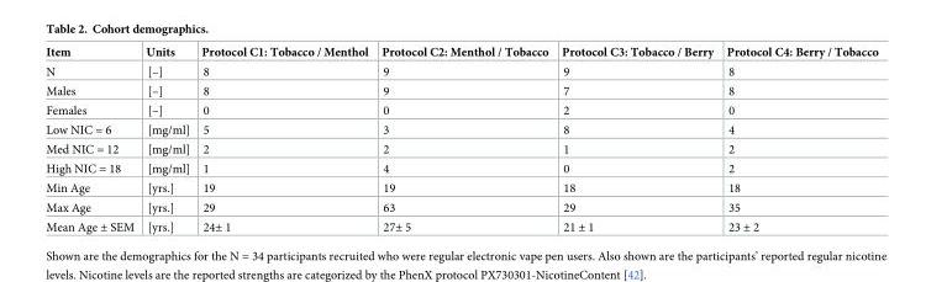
<table><thead><tr><td>Item</td><td>Units</td><td>Protocol C1: Tobacco / Menthol</td><td>Protocol C2: Menthol / Tobacco</td><td>Protocol C3: Tobacco / Berry</td><td>Protocol C4: Berry / Tobacco</td></tr></thead><tbody><tr><td>N</td><td>[–]</td><td>8</td><td>9</td><td>9</td><td>8</td></tr><tr><td>Males</td><td>[–]</td><td>8</td><td>9</td><td>7</td><td>8</td></tr><tr><td>Females</td><td>[–]</td><td>0</td><td>0</td><td>2</td><td>0</td></tr><tr><td>Low NIC = 6</td><td>[mg/ml]</td><td>5</td><td>3</td><td>8</td><td>4</td></tr><tr><td>Med NIC = 12</td><td>[mg/ml]</td><td>2</td><td>2</td><td>1</td><td>2</td></tr><tr><td>High NIC = 18</td><td>[mg/ml]</td><td>1</td><td>4</td><td>0</td><td>2</td></tr><tr><td>Min Age</td><td>[yrs.]</td><td>19</td><td>19</td><td>18</td><td>18</td></tr><tr><td>Max Age</td><td>[yrs.]</td><td>29</td><td>63</td><td>29</td><td>35</td></tr><tr><td>Mean Age ± SEM</td><td>[yrs.]</td><td>24± 1</td><td>27± 5</td><td>21 ± 1</td><td>23 ± 2</td></tr></tbody></table>